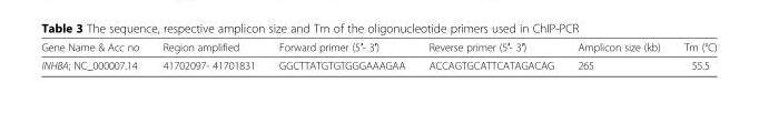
<table><thead><tr><td>Gene Name &amp; Acc no</td><td>Region amplified</td><td>Forward primer (5′- 3′)</td><td>Reverse primer (5′- 3′)</td><td>Amplicon size (kb)</td><td>Tm (°C)</td></tr></thead><tbody><tr><td>INHBA; NC_000007.14</td><td>41702097- 41701831</td><td>GGCTTATGTGTGGGAAAGAA</td><td>ACCAGTGCATTCATAGACAG</td><td>265</td><td>55.5</td></tr></tbody></table>